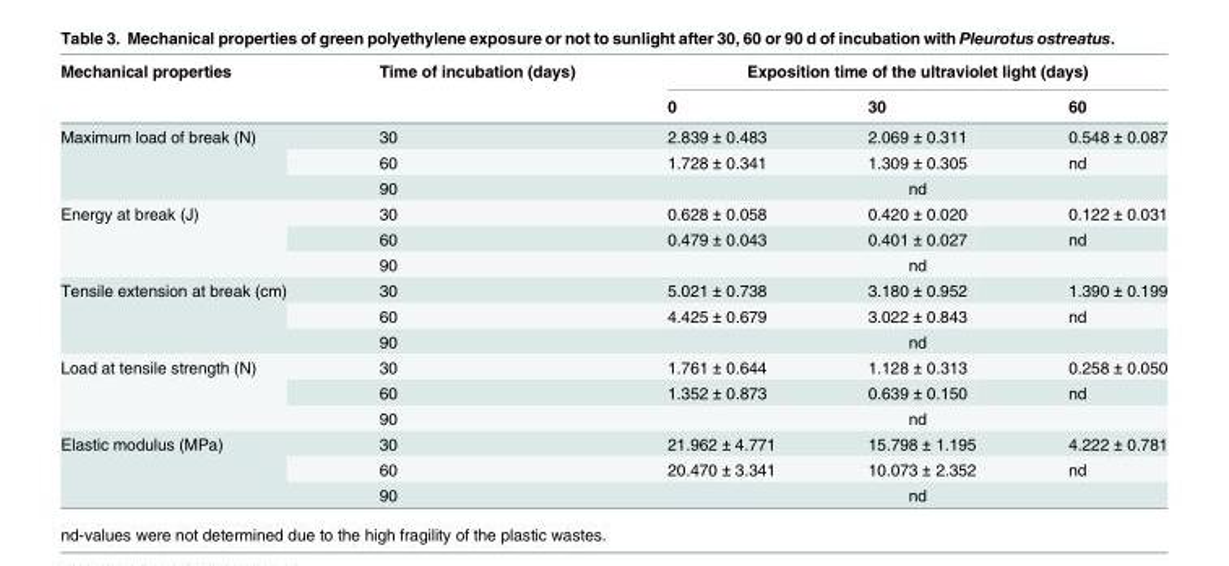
<table><thead><tr><td rowspan="2">Mechanical properties</td><td rowspan="2">Time of incubation (days)</td><td colspan="3">Exposition time of the ultraviolet light (days)</td></tr><tr><td>0</td><td>30</td><td>60</td></tr></thead><tbody><tr><td rowspan="3">Maximum load of break (N)</td><td>30</td><td>2.839 ± 0.483</td><td>2.069 ± 0.311</td><td>0.548 ± 0.087</td></tr><tr><td>60</td><td>1.728 ± 0.341</td><td>1.309 ± 0.305</td><td>nd</td></tr><tr><td>90</td><td colspan="3">nd</td></tr><tr><td rowspan="3">Energy at break (J)</td><td>30</td><td>0.628 ± 0.058</td><td>0.420 ± 0.020</td><td>0.122 ± 0.031</td></tr><tr><td>60</td><td>0.479 ± 0.043</td><td>0.401 ± 0.027</td><td>nd</td></tr><tr><td>90</td><td colspan="3">nd</td></tr><tr><td rowspan="3">Tensile extension at break (cm)</td><td>30</td><td>5.021 ± 0.738</td><td>3.180 ± 0.952</td><td>1.390 ± 0.199</td></tr><tr><td>60</td><td>4.425 ± 0.679</td><td>3.022 ± 0.843</td><td>nd</td></tr><tr><td>90</td><td colspan="3">nd</td></tr><tr><td rowspan="3">Load at tensile strength (N)</td><td>30</td><td>1.761 ± 0.644</td><td>1.128 ± 0.313</td><td>0.258 ± 0.050</td></tr><tr><td>60</td><td>1.352 ± 0.873</td><td>0.639 ± 0.150</td><td>nd</td></tr><tr><td>90</td><td colspan="3">nd</td></tr><tr><td rowspan="3">Elastic modulus (MPa)</td><td>30</td><td>21.962 ± 4.771</td><td>15.798 ± 1.195</td><td>4.222 ± 0.781</td></tr><tr><td>60</td><td>20.470 ± 3.341</td><td>10.073 ± 2.352</td><td>nd</td></tr><tr><td>90</td><td colspan="3">nd</td></tr></tbody></table>